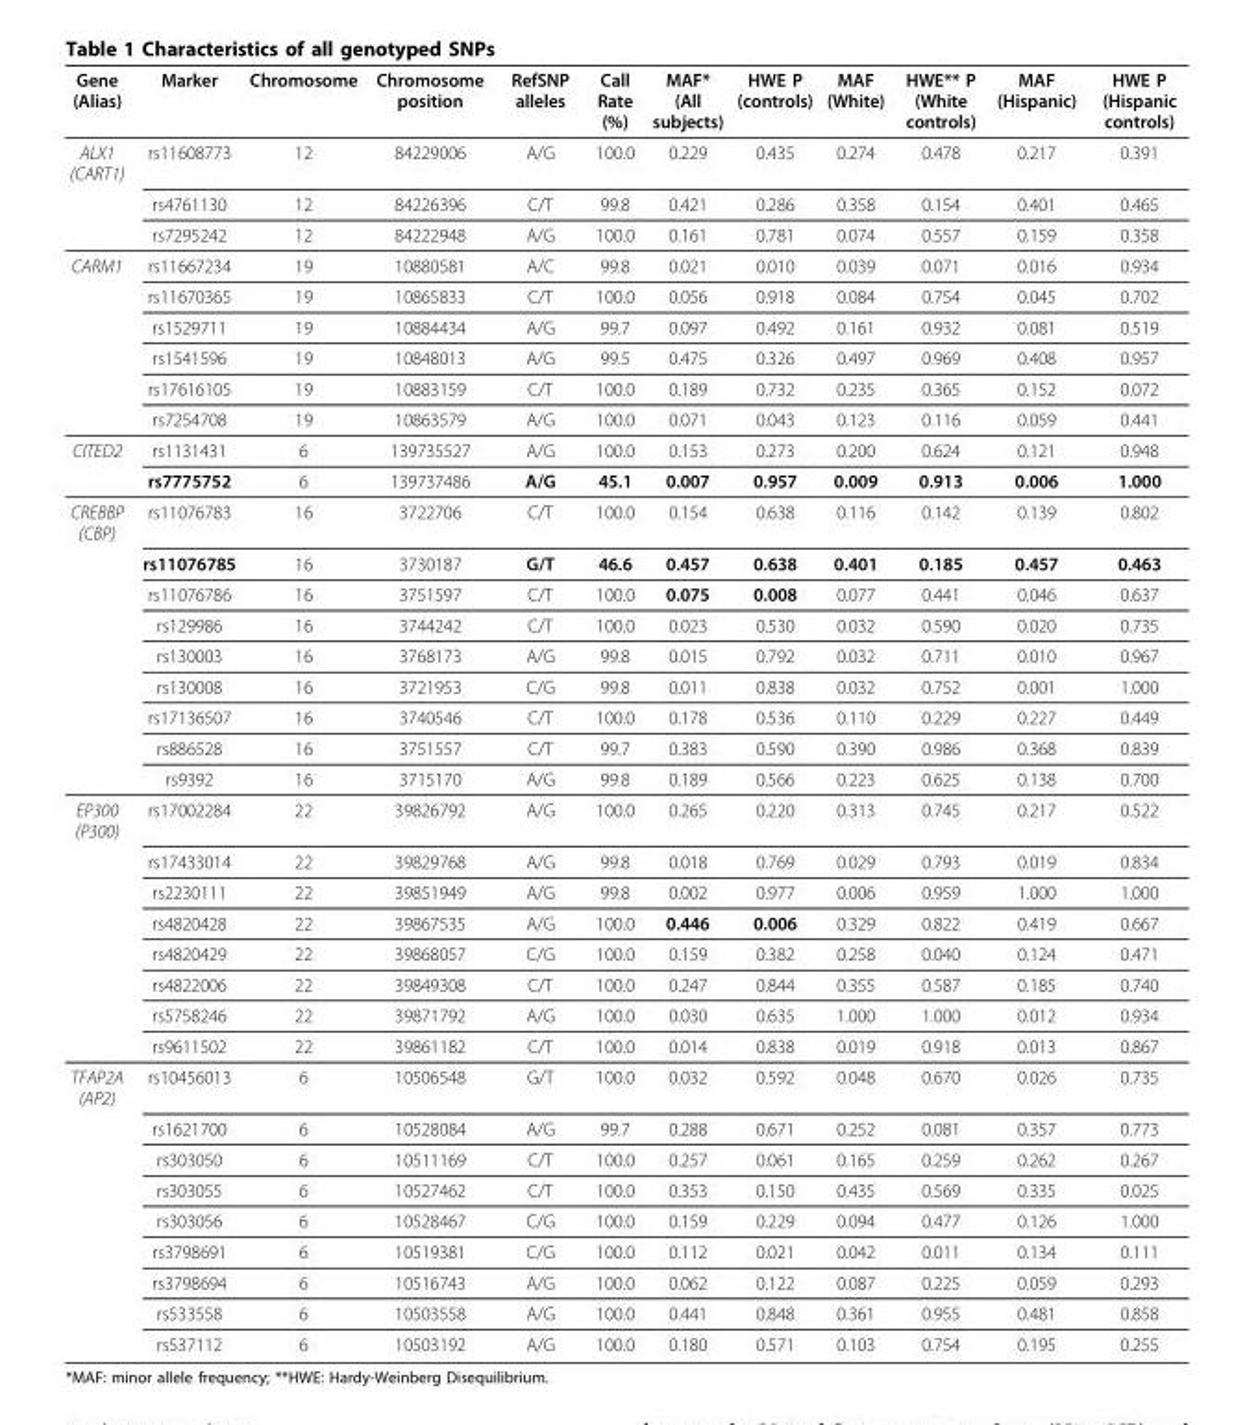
<table><thead><tr><td>Gene (Alias)</td><td>Marker</td><td>Chromosome</td><td>Chromosome position</td><td>RefSNP alleles</td><td>Call Rate (%)</td><td>MAF* (All subjects)</td><td>HWE P (controls)</td><td>MAF (White)</td><td>HWE** P (White controls)</td><td>MAF (Hispanic)</td><td>HWE P (Hispanic controls)</td></tr></thead><tbody><tr><td rowspan="3">ALX1 (CART1)</td><td>rs11608773</td><td>12</td><td>84229006</td><td>A/G</td><td>100.0</td><td>0.229</td><td>0.435</td><td>0.274</td><td>0.478</td><td>0.217</td><td>0.391</td></tr><tr><td>rs4761130</td><td>12</td><td>84226396</td><td>C/T</td><td>99.8</td><td>0.421</td><td>0.286</td><td>0.358</td><td>0.154</td><td>0.401</td><td>0.465</td></tr><tr><td>rs7295242</td><td>12</td><td>84222948</td><td>A/G</td><td>100.0</td><td>0.161</td><td>0.781</td><td>0.074</td><td>0.557</td><td>0.159</td><td>0.358</td></tr><tr><td rowspan="6">CARM1</td><td>rs11667234</td><td>19</td><td>10880581</td><td>A/C</td><td>99.8</td><td>0.021</td><td>0.010</td><td>0.039</td><td>0.071</td><td>0.016</td><td>0.934</td></tr><tr><td>rs11670365</td><td>19</td><td>10865833</td><td>C/T</td><td>100.0</td><td>0.056</td><td>0.918</td><td>0.084</td><td>0.754</td><td>0.045</td><td>0.702</td></tr><tr><td>rs1529711</td><td>19</td><td>10884434</td><td>A/G</td><td>99.7</td><td>0.097</td><td>0.492</td><td>0.161</td><td>0.932</td><td>0.081</td><td>0.519</td></tr><tr><td>rs1541596</td><td>19</td><td>10848013</td><td>A/G</td><td>99.5</td><td>0.475</td><td>0.326</td><td>0.497</td><td>0.969</td><td>0.408</td><td>0.957</td></tr><tr><td>rs17616105</td><td>19</td><td>10883159</td><td>C/T</td><td>100.0</td><td>0.189</td><td>0.732</td><td>0.235</td><td>0.365</td><td>0.152</td><td>0.072</td></tr><tr><td>rs7254708</td><td>19</td><td>10863579</td><td>A/G</td><td>100.0</td><td>0.071</td><td>0.043</td><td>0.123</td><td>0.116</td><td>0.059</td><td>0.441</td></tr><tr><td rowspan="2">CITED2</td><td>rs1131431</td><td>6</td><td>139735527</td><td>A/G</td><td>100.0</td><td>0.153</td><td>0.273</td><td>0.200</td><td>0.624</td><td>0.121</td><td>0.948</td></tr><tr><td>rs7775752</td><td>6</td><td>139737486</td><td>A/G</td><td>45.1</td><td>0.007</td><td>0.957</td><td>0.009</td><td>0.913</td><td>0.006</td><td>1.000</td></tr><tr><td rowspan="9">CREBBP (CBP)</td><td>rs11076783</td><td>16</td><td>3722706</td><td>C/T</td><td>100.0</td><td>0.154</td><td>0.638</td><td>0.116</td><td>0.142</td><td>0.139</td><td>0.802</td></tr><tr><td>rs11076785</td><td>16</td><td>3730187</td><td>G/T</td><td>46.6</td><td>0.457</td><td>0.638</td><td>0.401</td><td>0.185</td><td>0.457</td><td>0.463</td></tr><tr><td>rs11076786</td><td>16</td><td>3751597</td><td>C/T</td><td>100.0</td><td>0.075</td><td>0.008</td><td>0.077</td><td>0.441</td><td>0.046</td><td>0.637</td></tr><tr><td>rs129986</td><td>16</td><td>3744242</td><td>C/T</td><td>100.0</td><td>0.023</td><td>0.530</td><td>0.032</td><td>0.590</td><td>0.020</td><td>0.735</td></tr><tr><td>rs130003</td><td>16</td><td>3768173</td><td>A/G</td><td>99.8</td><td>0.015</td><td>0.792</td><td>0.032</td><td>0.711</td><td>0.010</td><td>0.967</td></tr><tr><td>rs130008</td><td>16</td><td>3721953</td><td>C/G</td><td>99.8</td><td>0.011</td><td>0.838</td><td>0.032</td><td>0.752</td><td>0.001</td><td>1.000</td></tr><tr><td>rs17136507</td><td>16</td><td>3740546</td><td>C/T</td><td>100.0</td><td>0.178</td><td>0.536</td><td>0.110</td><td>0.229</td><td>0.227</td><td>0.449</td></tr><tr><td>rs886528</td><td>16</td><td>3751557</td><td>C/T</td><td>99.7</td><td>0.383</td><td>0.590</td><td>0.390</td><td>0.986</td><td>0.368</td><td>0.839</td></tr><tr><td>rs9392</td><td>16</td><td>3715170</td><td>A/G</td><td>99.8</td><td>0.189</td><td>0.566</td><td>0.223</td><td>0.625</td><td>0.138</td><td>0.700</td></tr><tr><td rowspan="8">EP300 (P300)</td><td>rs17002284</td><td>22</td><td>39826792</td><td>A/G</td><td>100.0</td><td>0.265</td><td>0.220</td><td>0.313</td><td>0.745</td><td>0.217</td><td>0.522</td></tr><tr><td>rs17433014</td><td>22</td><td>39829768</td><td>A/G</td><td>99.8</td><td>0.018</td><td>0.769</td><td>0.029</td><td>0.793</td><td>0.019</td><td>0.834</td></tr><tr><td>rs2230111</td><td>22</td><td>39851949</td><td>A/G</td><td>99.8</td><td>0.002</td><td>0.977</td><td>0.006</td><td>0.959</td><td>1.000</td><td>1.000</td></tr><tr><td>rs4820428</td><td>22</td><td>39867535</td><td>A/G</td><td>100.0</td><td>0.446</td><td>0.006</td><td>0.329</td><td>0.822</td><td>0.419</td><td>0.667</td></tr><tr><td>rs4820429</td><td>22</td><td>39868057</td><td>C/G</td><td>100.0</td><td>0.159</td><td>0.382</td><td>0.258</td><td>0.040</td><td>0.124</td><td>0.471</td></tr><tr><td>rs4822006</td><td>22</td><td>39849308</td><td>C/T</td><td>100.0</td><td>0.247</td><td>0.844</td><td>0.355</td><td>0.587</td><td>0.185</td><td>0.740</td></tr><tr><td>rs5758246</td><td>22</td><td>39871792</td><td>A/G</td><td>100.0</td><td>0.030</td><td>0.635</td><td>1.000</td><td>1.000</td><td>0.012</td><td>0.934</td></tr><tr><td>rs9611502</td><td>22</td><td>39861182</td><td>C/T</td><td>100.0</td><td>0.014</td><td>0.838</td><td>0.019</td><td>0.918</td><td>0.013</td><td>0.867</td></tr><tr><td rowspan="9">TFAP2A (AP2)</td><td>rs10456013</td><td>6</td><td>10506548</td><td>G/T</td><td>100.0</td><td>0.032</td><td>0.592</td><td>0.048</td><td>0.670</td><td>0.026</td><td>0.735</td></tr><tr><td>rs1621700</td><td>6</td><td>10528084</td><td>A/G</td><td>99.7</td><td>0.288</td><td>0.671</td><td>0.252</td><td>0.081</td><td>0.357</td><td>0.773</td></tr><tr><td>rs303050</td><td>6</td><td>10511169</td><td>C/T</td><td>100.0</td><td>0.257</td><td>0.061</td><td>0.165</td><td>0.259</td><td>0.262</td><td>0.267</td></tr><tr><td>rs303055</td><td>6</td><td>10527462</td><td>C/T</td><td>100.0</td><td>0.353</td><td>0.150</td><td>0.435</td><td>0.569</td><td>0.335</td><td>0.025</td></tr><tr><td>rs303056</td><td>6</td><td>10528467</td><td>C/G</td><td>100.0</td><td>0.159</td><td>0.229</td><td>0.094</td><td>0.477</td><td>0.126</td><td>1.000</td></tr><tr><td>rs3798691</td><td>6</td><td>10519381</td><td>C/G</td><td>100.0</td><td>0.112</td><td>0.021</td><td>0.042</td><td>0.011</td><td>0.134</td><td>0.111</td></tr><tr><td>rs3798694</td><td>6</td><td>10516743</td><td>A/G</td><td>100.0</td><td>0.062</td><td>0.122</td><td>0.087</td><td>0.225</td><td>0.059</td><td>0.293</td></tr><tr><td>rs533558</td><td>6</td><td>10503558</td><td>A/G</td><td>100.0</td><td>0.441</td><td>0.848</td><td>0.361</td><td>0.955</td><td>0.481</td><td>0.858</td></tr><tr><td>rs537112</td><td>6</td><td>10503192</td><td>A/G</td><td>100.0</td><td>0.180</td><td>0.571</td><td>0.103</td><td>0.754</td><td>0.195</td><td>0.255</td></tr></tbody></table>